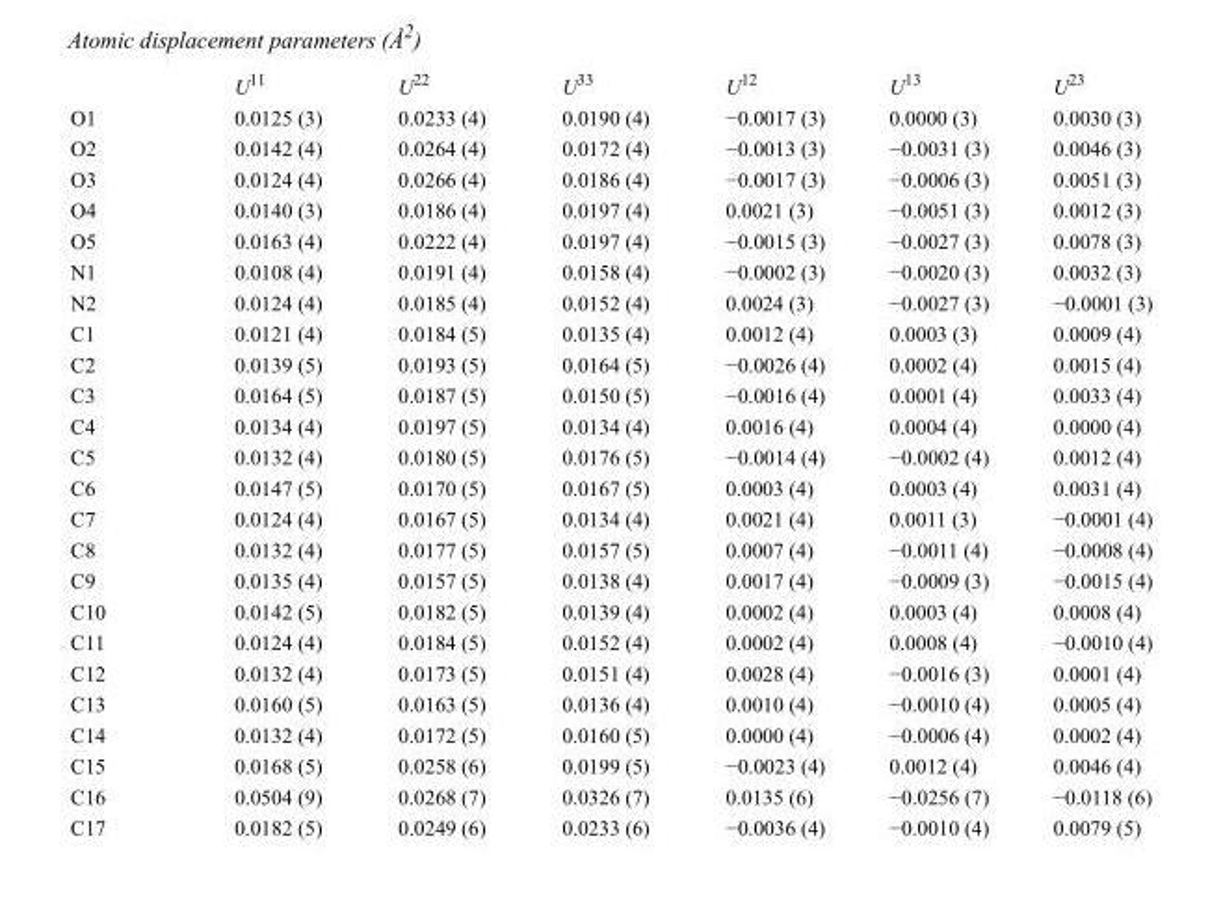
<table><thead><tr><td></td><td>U<sup>11</sup></td><td>U<sup>22</sup></td><td>U<sup>33</sup></td><td>U<sup>12</sup></td><td>U<sup>13</sup></td><td>U<sup>23</sup></td></tr></thead><tbody><tr><td>O1</td><td>0.0125 (3)</td><td>0.0233 (4)</td><td>0.0190 (4)</td><td>−0.0017 (3)</td><td>0.0000 (3)</td><td>0.0030 (3)</td></tr><tr><td>O2</td><td>0.0142 (4)</td><td>0.0264 (4)</td><td>0.0172 (4)</td><td>−0.0013 (3)</td><td>−0.0031 (3)</td><td>0.0046 (3)</td></tr><tr><td>O3</td><td>0.0124 (4)</td><td>0.0266 (4)</td><td>0.0186 (4)</td><td>−0.0017 (3)</td><td>−0.0006 (3)</td><td>0.0051 (3)</td></tr><tr><td>O4</td><td>0.0140 (3)</td><td>0.0186 (4)</td><td>0.0197 (4)</td><td>0.0021 (3)</td><td>−0.0051 (3)</td><td>0.0012 (3)</td></tr><tr><td>O5</td><td>0.0163 (4)</td><td>0.0222 (4)</td><td>0.0197 (4)</td><td>−0.0015 (3)</td><td>−0.0027 (3)</td><td>0.0078 (3)</td></tr><tr><td>N1</td><td>0.0108 (4)</td><td>0.0191 (4)</td><td>0.0158 (4)</td><td>−0.0002 (3)</td><td>−0.0020 (3)</td><td>0.0032 (3)</td></tr><tr><td>N2</td><td>0.0124 (4)</td><td>0.0185 (4)</td><td>0.0152 (4)</td><td>0.0024 (3)</td><td>−0.0027 (3)</td><td>−0.0001 (3)</td></tr><tr><td>C1</td><td>0.0121 (4)</td><td>0.0184 (5)</td><td>0.0135 (4)</td><td>0.0012 (4)</td><td>0.0003 (3)</td><td>0.0009 (4)</td></tr><tr><td>C2</td><td>0.0139 (5)</td><td>0.0193 (5)</td><td>0.0164 (5)</td><td>−0.0026 (4)</td><td>0.0002 (4)</td><td>0.0015 (4)</td></tr><tr><td>C3</td><td>0.0164 (5)</td><td>0.0187 (5)</td><td>0.0150 (5)</td><td>−0.0016 (4)</td><td>0.0001 (4)</td><td>0.0033 (4)</td></tr><tr><td>C4</td><td>0.0134 (4)</td><td>0.0197 (5)</td><td>0.0134 (4)</td><td>0.0016 (4)</td><td>0.0004 (4)</td><td>0.0000 (4)</td></tr><tr><td>C5</td><td>0.0132 (4)</td><td>0.0180 (5)</td><td>0.0176 (5)</td><td>−0.0014 (4)</td><td>−0.0002 (4)</td><td>0.0012 (4)</td></tr><tr><td>C6</td><td>0.0147 (5)</td><td>0.0170 (5)</td><td>0.0167 (5)</td><td>0.0003 (4)</td><td>0.0003 (4)</td><td>0.0031 (4)</td></tr><tr><td>C7</td><td>0.0124 (4)</td><td>0.0167 (5)</td><td>0.0134 (4)</td><td>0.0021 (4)</td><td>0.0011 (3)</td><td>−0.0001 (4)</td></tr><tr><td>C8</td><td>0.0132 (4)</td><td>0.0177 (5)</td><td>0.0157 (5)</td><td>0.0007 (4)</td><td>−0.0011 (4)</td><td>−0.0008 (4)</td></tr><tr><td>C9</td><td>0.0135 (4)</td><td>0.0157 (5)</td><td>0.0138 (4)</td><td>0.0017 (4)</td><td>−0.0009 (3)</td><td>−0.0015 (4)</td></tr><tr><td>C10</td><td>0.0142 (5)</td><td>0.0182 (5)</td><td>0.0139 (4)</td><td>0.0002 (4)</td><td>0.0003 (4)</td><td>0.0008 (4)</td></tr><tr><td>C11</td><td>0.0124 (4)</td><td>0.0184 (5)</td><td>0.0152 (4)</td><td>0.0002 (4)</td><td>0.0008 (4)</td><td>−0.0010 (4)</td></tr><tr><td>C12</td><td>0.0132 (4)</td><td>0.0173 (5)</td><td>0.0151 (4)</td><td>0.0028 (4)</td><td>−0.0016 (3)</td><td>0.0001 (4)</td></tr><tr><td>C13</td><td>0.0160 (5)</td><td>0.0163 (5)</td><td>0.0136 (4)</td><td>0.0010 (4)</td><td>−0.0010 (4)</td><td>0.0005 (4)</td></tr><tr><td>C14</td><td>0.0132 (4)</td><td>0.0172 (5)</td><td>0.0160 (5)</td><td>0.0000 (4)</td><td>−0.0006 (4)</td><td>0.0002 (4)</td></tr><tr><td>C15</td><td>0.0168 (5)</td><td>0.0258 (6)</td><td>0.0199 (5)</td><td>−0.0023 (4)</td><td>0.0012 (4)</td><td>0.0046 (4)</td></tr><tr><td>C16</td><td>0.0504 (9)</td><td>0.0268 (7)</td><td>0.0326 (7)</td><td>0.0135 (6)</td><td>−0.0256 (7)</td><td>−0.0118 (6)</td></tr><tr><td>C17</td><td>0.0182 (5)</td><td>0.0249 (6)</td><td>0.0233 (6)</td><td>−0.0036 (4)</td><td>−0.0010 (4)</td><td>0.0079 (5)</td></tr></tbody></table>